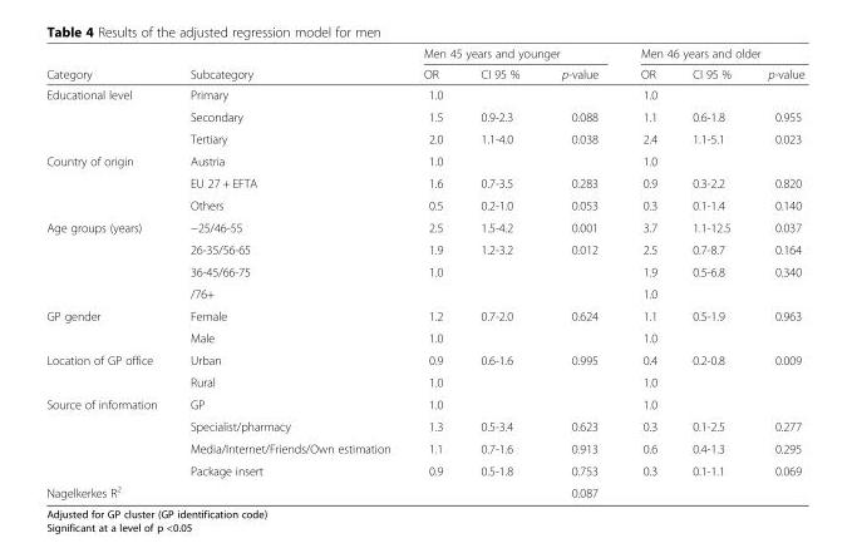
<table><thead><tr><td rowspan="2">Category</td><td rowspan="2">Subcategory</td><td colspan="3">Men 45 years and younger</td><td colspan="3">Men 46 years and older</td></tr><tr><td>OR</td><td>CI 95 %</td><td>p-value</td><td>OR</td><td>CI 95 %</td><td>p-value</td></tr></thead><tbody><tr><td rowspan="3">Educational level</td><td>Primary</td><td>1.0</td><td></td><td></td><td>1.0</td><td></td><td></td></tr><tr><td>Secondary</td><td>1.5</td><td>0.9-2.3</td><td>0.088</td><td>1.1</td><td>0.6-1.8</td><td>0.955</td></tr><tr><td>Tertiary</td><td>2.0</td><td>1.1-4.0</td><td>0.038</td><td>2.4</td><td>1.1-5.1</td><td>0.023</td></tr><tr><td rowspan="3">Country of origin</td><td>Austria</td><td>1.0</td><td></td><td></td><td>1.0</td><td></td><td></td></tr><tr><td>EU 27 + EFTA</td><td>1.6</td><td>0.7-3.5</td><td>0.283</td><td>0.9</td><td>0.3-2.2</td><td>0.820</td></tr><tr><td>Others</td><td>0.5</td><td>0.2-1.0</td><td>0.053</td><td>0.3</td><td>0.1-1.4</td><td>0.140</td></tr><tr><td rowspan="4">Age groups (years)</td><td>−25/46-55</td><td>2.5</td><td>1.5-4.2</td><td>0.001</td><td>3.7</td><td>1.1-12.5</td><td>0.037</td></tr><tr><td>26-35/56-65</td><td>1.9</td><td>1.2-3.2</td><td>0.012</td><td>2.5</td><td>0.7-8.7</td><td>0.164</td></tr><tr><td>36-45/66-75</td><td>1.0</td><td></td><td></td><td>1.9</td><td>0.5-6.8</td><td>0.340</td></tr><tr><td>/76+</td><td></td><td></td><td></td><td>1.0</td><td></td><td></td></tr><tr><td rowspan="2">GP gender</td><td>Female</td><td>1.2</td><td>0.7-2.0</td><td>0.624</td><td>1.1</td><td>0.5-1.9</td><td>0.963</td></tr><tr><td>Male</td><td>1.0</td><td></td><td></td><td>1.0</td><td></td><td></td></tr><tr><td rowspan="2">Location of GP office</td><td>Urban</td><td>0.9</td><td>0.6-1.6</td><td>0.995</td><td>0.4</td><td>0.2-0.8</td><td>0.009</td></tr><tr><td>Rural</td><td>1.0</td><td></td><td></td><td>1.0</td><td></td><td></td></tr><tr><td rowspan="4">Source of information</td><td>GP</td><td>1.0</td><td></td><td></td><td>1.0</td><td></td><td></td></tr><tr><td>Specialist/pharmacy</td><td>1.3</td><td>0.5-3.4</td><td>0.623</td><td>0.3</td><td>0.1-2.5</td><td>0.277</td></tr><tr><td>Media/Internet/Friends/Own estimation</td><td>1.1</td><td>0.7-1.6</td><td>0.913</td><td>0.6</td><td>0.4-1.3</td><td>0.295</td></tr><tr><td>Package insert</td><td>0.9</td><td>0.5-1.8</td><td>0.753</td><td>0.3</td><td>0.1-1.1</td><td>0.069</td></tr><tr><td>Nagelkerkes R<sup>2</sup></td><td colspan="3"></td><td>0.087</td><td colspan="3"></td></tr></tbody></table>